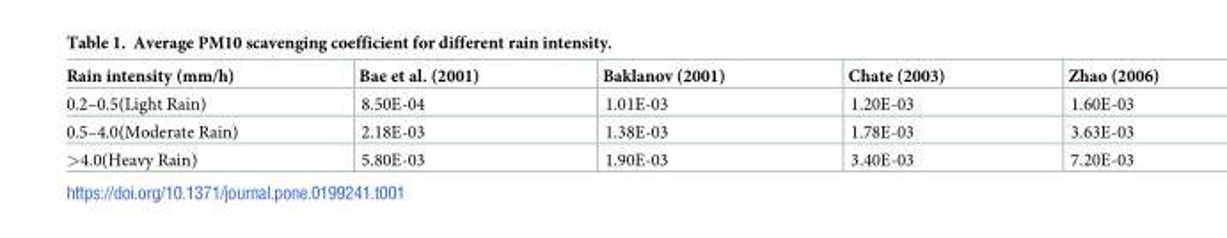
<table><thead><tr><td>Rain intensity (mm/h)</td><td>Bae et al. (2001)</td><td>Baklanov (2001)</td><td>Chate (2003)</td><td>Zhao (2006)</td></tr></thead><tbody><tr><td>0.2–0.5(Light Rain)</td><td>8.50E-04</td><td>1.01E-03</td><td>1.20E-03</td><td>1.60E-03</td></tr><tr><td>0.5–4.0(Moderate Rain)</td><td>2.18E-03</td><td>1.38E-03</td><td>1.78E-03</td><td>3.63E-03</td></tr><tr><td>&gt;4.0(Heavy Rain)</td><td>5.80E-03</td><td>1.90E-03</td><td>3.40E-03</td><td>7.20E-03</td></tr></tbody></table>